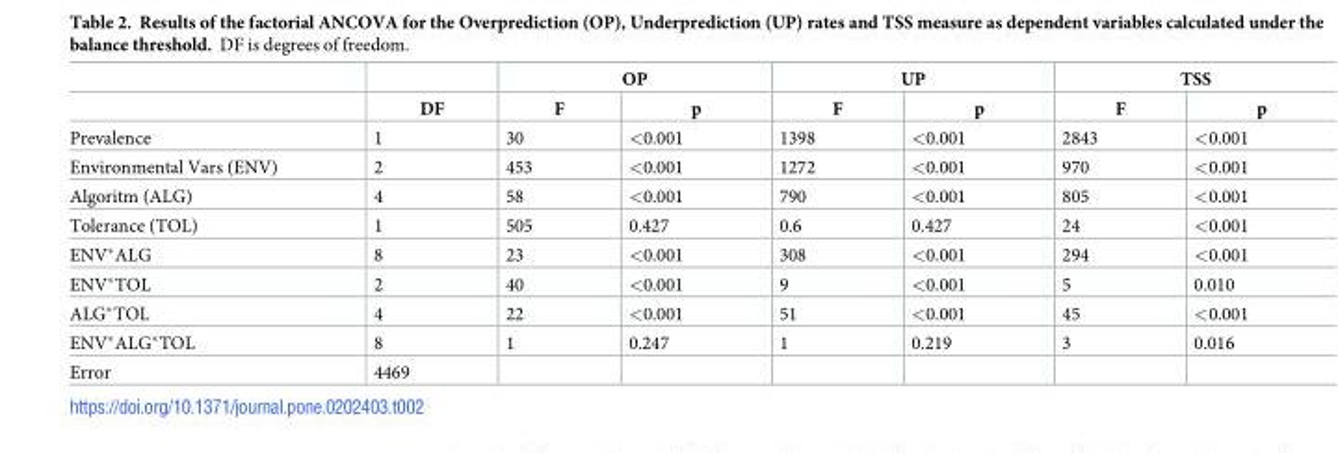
<table><thead><tr><td rowspan="2"></td><td rowspan="2">DF</td><td colspan="2">OP</td><td colspan="2">UP</td><td colspan="2">TSS</td></tr><tr><td>F</td><td>p</td><td>F</td><td>p</td><td>F</td><td>p</td></tr></thead><tbody><tr><td>Prevalence</td><td>1</td><td>30</td><td>&lt;0.001</td><td>1398</td><td>&lt;0.001</td><td>2843</td><td>&lt;0.001</td></tr><tr><td>Environmental Vars (ENV)</td><td>2</td><td>453</td><td>&lt;0.001</td><td>1272</td><td>&lt;0.001</td><td>970</td><td>&lt;0.001</td></tr><tr><td>Algoritm (ALG)</td><td>4</td><td>58</td><td>&lt;0.001</td><td>790</td><td>&lt;0.001</td><td>805</td><td>&lt;0.001</td></tr><tr><td>Tolerance (TOL)</td><td>1</td><td>505</td><td>0.427</td><td>0.6</td><td>0.427</td><td>24</td><td>&lt;0.001</td></tr><tr><td>ENV*ALG</td><td>8</td><td>23</td><td>&lt;0.001</td><td>308</td><td>&lt;0.001</td><td>294</td><td>&lt;0.001</td></tr><tr><td>ENV*TOL</td><td>2</td><td>40</td><td>&lt;0.001</td><td>9</td><td>&lt;0.001</td><td>5</td><td>0.010</td></tr><tr><td>ALG*TOL</td><td>4</td><td>22</td><td>&lt;0.001</td><td>51</td><td>&lt;0.001</td><td>45</td><td>&lt;0.001</td></tr><tr><td>ENV*ALG*TOL</td><td>8</td><td>1</td><td>0.247</td><td>1</td><td>0.219</td><td>3</td><td>0.016</td></tr><tr><td>Error</td><td>4469</td><td></td><td></td><td></td><td></td><td></td><td></td></tr></tbody></table>